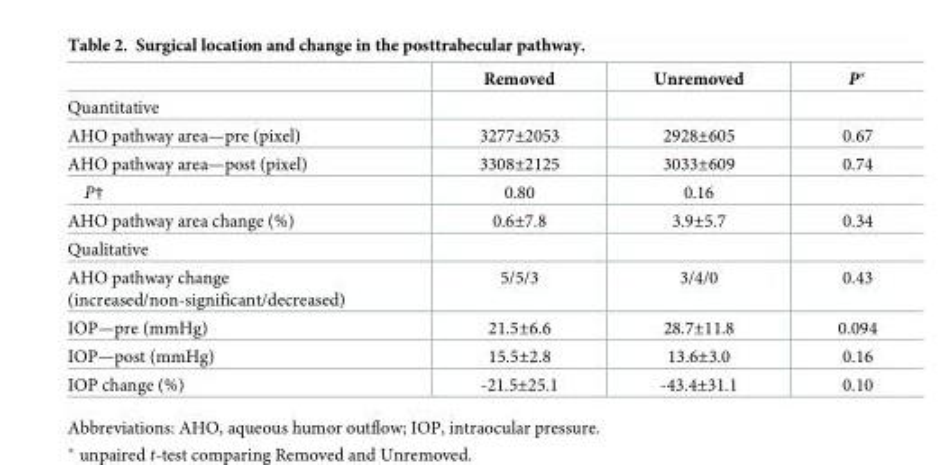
<table><thead><tr><td></td><td>Removed</td><td>Unremoved</td><td>P*</td></tr></thead><tbody><tr><td colspan="4">Quantitative</td></tr><tr><td>AHO pathway area—pre (pixel)</td><td>3277±2053</td><td>2928±605</td><td>0.67</td></tr><tr><td>AHO pathway area—post (pixel)</td><td>3308±2125</td><td>3033±609</td><td>0.74</td></tr><tr><td>P†</td><td>0.80</td><td>0.16</td><td></td></tr><tr><td>AHO pathway area change (%)</td><td>0.6±7.8</td><td>3.9±5.7</td><td>0.34</td></tr><tr><td colspan="4">Qualitative</td></tr><tr><td>AHO pathway change (increased/non-significant/decreased)</td><td>5/5/3</td><td>3/4/0</td><td>0.43</td></tr><tr><td>IOP—pre (mmHg)</td><td>21.5±6.6</td><td>28.7±11.8</td><td>0.094</td></tr><tr><td>IOP—post (mmHg)</td><td>15.5±2.8</td><td>13.6±3.0</td><td>0.16</td></tr><tr><td>IOP change (%)</td><td>-21.5±25.1</td><td>-43.4±31.1</td><td>0.10</td></tr></tbody></table>